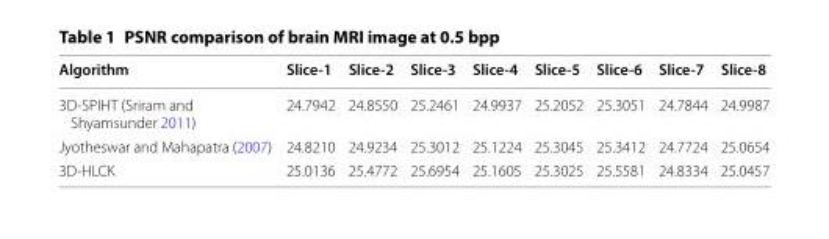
<table><thead><tr><td>Algorithm</td><td>Slice‑1</td><td>Slice‑2</td><td>Slice‑3</td><td>Slice‑4</td><td>Slice‑5</td><td>Slice‑6</td><td>Slice‑7</td><td>Slice‑8</td></tr></thead><tbody><tr><td>3D-SPIHT (Sriram and Shyamsunder 2011)</td><td>24.7942</td><td>24.8550</td><td>25.2461</td><td>24.9937</td><td>25.2052</td><td>25.3051</td><td>24.7844</td><td>24.9987</td></tr><tr><td>Jyotheswar and Mahapatra (2007)</td><td>24.8210</td><td>24.9234</td><td>25.3012</td><td>25.1224</td><td>25.3045</td><td>25.3412</td><td>24.7724</td><td>25.0654</td></tr><tr><td>3D-HLCK</td><td>25.0136</td><td>25.4772</td><td>25.6954</td><td>25.1605</td><td>25.3025</td><td>25.5581</td><td>24.8334</td><td>25.0457</td></tr></tbody></table>